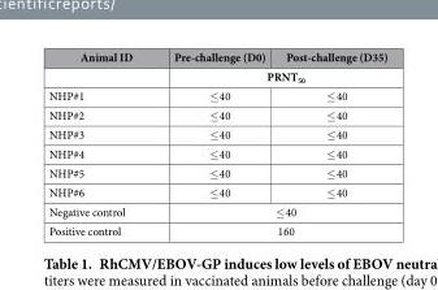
<table><thead><tr><td>Animal ID</td><td>Pre-challenge (D0)</td><td>Post-challenge (D35)</td></tr></thead><tbody><tr><td></td><td colspan="2">PRNT<sub>50</sub></td></tr><tr><td>NHP#1</td><td>≤ 40</td><td>≤ 40</td></tr><tr><td>NHP#2</td><td>≤ 40</td><td>≤ 40</td></tr><tr><td>NHP#3</td><td>≤ 40</td><td>≤ 40</td></tr><tr><td>NHP#4</td><td>≤ 40</td><td>≤ 40</td></tr><tr><td>NHP#5</td><td>≤ 40</td><td>≤ 40</td></tr><tr><td>NHP#6</td><td>≤ 40</td><td>≤ 40</td></tr><tr><td>Negative control</td><td colspan="2">≤ 40</td></tr><tr><td>Positive control</td><td colspan="2">160</td></tr></tbody></table>